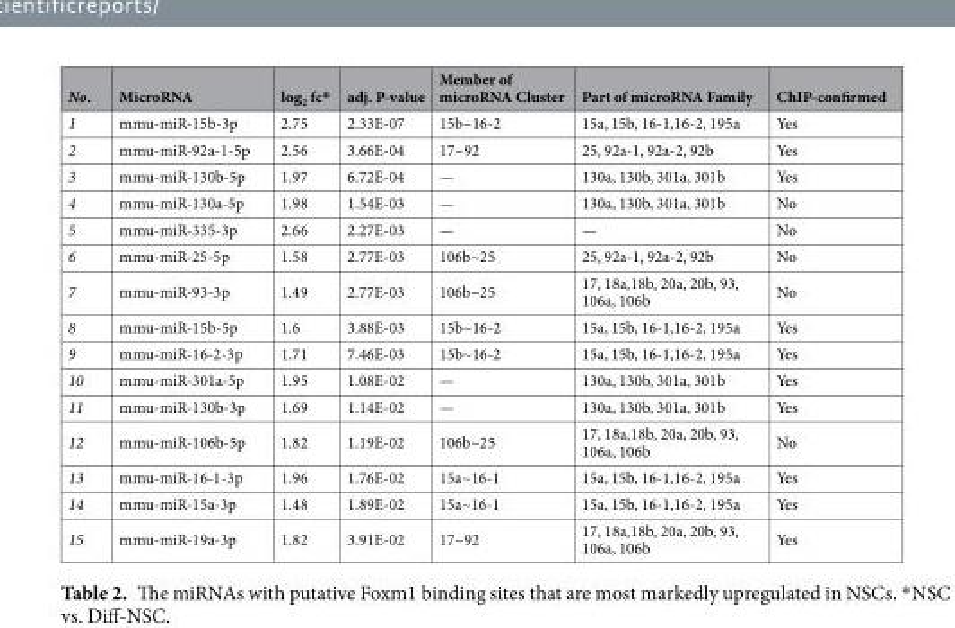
<table><thead><tr><td>No.</td><td>MicroRNA</td><td>log<sub>2</sub> fc*</td><td>adj. P-value</td><td>Member of microRNA Cluster</td><td>Part of microRNA Family</td><td>ChIP-confirmed</td></tr></thead><tbody><tr><td>1</td><td>mmu-miR-15b-3p</td><td>2.75</td><td>2.33E-07</td><td>15b~16-2</td><td>15a, 15b, 16-1,16-2, 195a</td><td>Yes</td></tr><tr><td>2</td><td>mmu-miR-92a-1-5p</td><td>2.56</td><td>3.66E-04</td><td>17~92</td><td>25, 92a-1, 92a-2, 92b</td><td>Yes</td></tr><tr><td>3</td><td>mmu-miR-130b-5p</td><td>1.97</td><td>6.72E-04</td><td>—</td><td>130a, 130b, 301a, 301b</td><td>Yes</td></tr><tr><td>4</td><td>mmu-miR-130a-5p</td><td>1.98</td><td>1.54E-03</td><td>—</td><td>130a, 130b, 301a, 301b</td><td>No</td></tr><tr><td>5</td><td>mmu-miR-335-3p</td><td>2.66</td><td>2.27E-03</td><td>—</td><td>—</td><td>No</td></tr><tr><td>6</td><td>mmu-miR-25-5p</td><td>1.58</td><td>2.77E-03</td><td>106b~25</td><td>25, 92a-1, 92a-2, 92b</td><td>No</td></tr><tr><td>7</td><td>mmu-miR-93-3p</td><td>1.49</td><td>2.77E-03</td><td>106b~25</td><td>17, 18a,18b, 20a, 20b, 93, 106a, 106b</td><td>No</td></tr><tr><td>8</td><td>mmu-miR-15b-5p</td><td>1.6</td><td>3.88E-03</td><td>15b~16-2</td><td>15a, 15b, 16-1,16-2, 195a</td><td>Yes</td></tr><tr><td>9</td><td>mmu-miR-16-2-3p</td><td>1.71</td><td>7.46E-03</td><td>15b~16-2</td><td>15a, 15b, 16-1,16-2, 195a</td><td>Yes</td></tr><tr><td>10</td><td>mmu-miR-301a-5p</td><td>1.95</td><td>1.08E-02</td><td>—</td><td>130a, 130b, 301a, 301b</td><td>Yes</td></tr><tr><td>11</td><td>mmu-miR-130b-3p</td><td>1.69</td><td>1.14E-02</td><td>—</td><td>130a, 130b, 301a, 301b</td><td>Yes</td></tr><tr><td>12</td><td>mmu-miR-106b-5p</td><td>1.82</td><td>1.19E-02</td><td>106b~25</td><td>17, 18a,18b, 20a, 20b, 93, 106a, 106b</td><td>No</td></tr><tr><td>13</td><td>mmu-miR-16-1-3p</td><td>1.96</td><td>1.76E-02</td><td>15a~16-1</td><td>15a, 15b, 16-1,16-2, 195a</td><td>Yes</td></tr><tr><td>14</td><td>mmu-miR-15a-3p</td><td>1.48</td><td>1.89E-02</td><td>15a~16-1</td><td>15a, 15b, 16-1,16-2, 195a</td><td>Yes</td></tr><tr><td>15</td><td>mmu-miR-19a-3p</td><td>1.82</td><td>3.91E-02</td><td>17~92</td><td>17, 18a,18b, 20a, 20b, 93, 106a, 106b</td><td>Yes</td></tr></tbody></table>